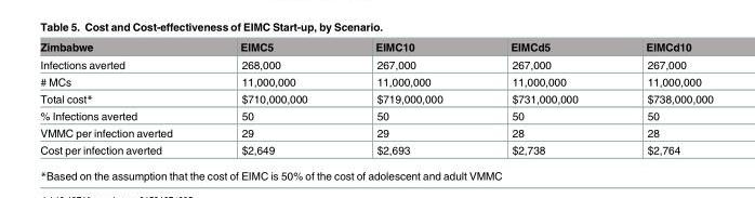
<table><thead><tr><td>Zimbabwe</td><td>EIMC5</td><td>EIMC10</td><td>EIMCd5</td><td>EIMCd10</td></tr></thead><tbody><tr><td>Infections averted</td><td>268,000</td><td>267,000</td><td>267,000</td><td>267,000</td></tr><tr><td># MCs</td><td>11,000,000</td><td>11,000,000</td><td>11,000,000</td><td>11,000,000</td></tr><tr><td>Total cost*</td><td>$710,000,000</td><td>$719,000,000</td><td>$731,000,000</td><td>$738,000,000</td></tr><tr><td>% Infections averted</td><td>50</td><td>50</td><td>50</td><td>50</td></tr><tr><td>VMMC per infection averted</td><td>29</td><td>29</td><td>28</td><td>28</td></tr><tr><td>Cost per infection averted</td><td>$2,649</td><td>$2,693</td><td>$2,738</td><td>$2,764</td></tr></tbody></table>